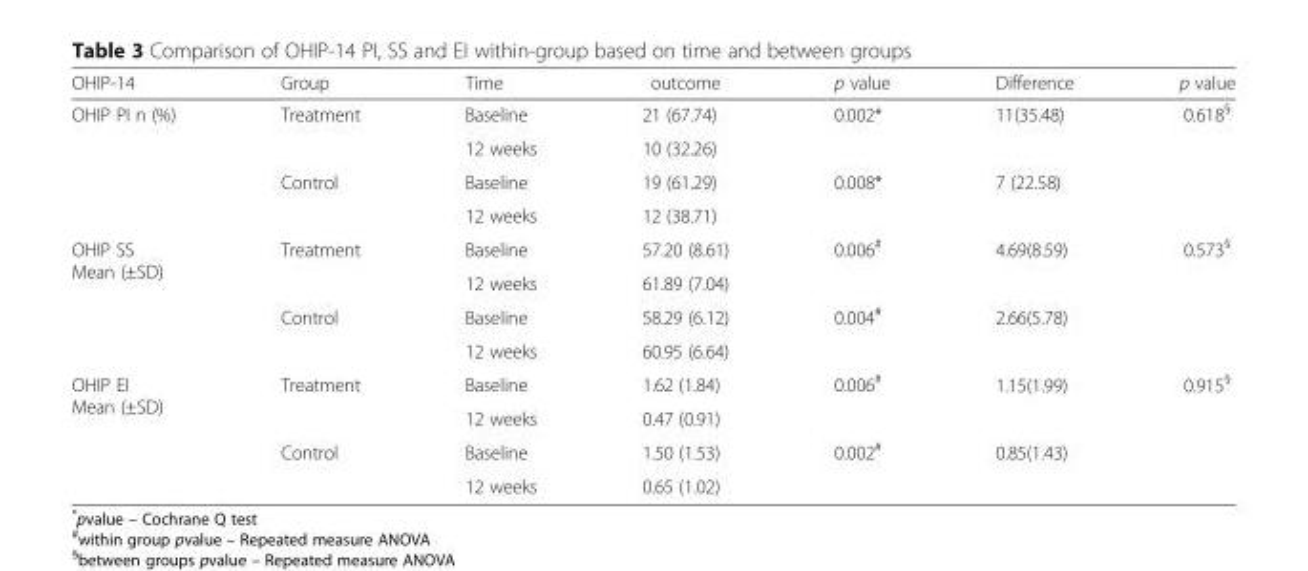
<table><thead><tr><td>OHIP-14</td><td>Group</td><td>Time</td><td>outcome</td><td>p value</td><td>Difference</td><td>p value</td></tr></thead><tbody><tr><td rowspan="4">OHIP PI n (%)</td><td rowspan="2">Treatment</td><td>Baseline</td><td>21 (67.74)</td><td rowspan="2">0.002*</td><td>11(35.48)</td><td rowspan="4">0.618<sup>§</sup></td></tr><tr><td>12 weeks</td><td>10 (32.26)</td><td></td></tr><tr><td rowspan="2">Control</td><td>Baseline</td><td>19 (61.29)</td><td rowspan="2">0.008*</td><td>7 (22.58)</td></tr><tr><td>12 weeks</td><td>12 (38.71)</td><td></td></tr><tr><td rowspan="4">OHIP SS Mean (±SD)</td><td rowspan="2">Treatment</td><td>Baseline</td><td>57.20 (8.61)</td><td rowspan="2">0.006<sup>#</sup></td><td>4.69(8.59)</td><td rowspan="4">0.573<sup>§</sup></td></tr><tr><td>12 weeks</td><td>61.89 (7.04)</td><td></td></tr><tr><td rowspan="2">Control</td><td>Baseline</td><td>58.29 (6.12)</td><td rowspan="2">0.004<sup>#</sup></td><td>2.66(5.78)</td></tr><tr><td>12 weeks</td><td>60.95 (6.64)</td><td></td></tr><tr><td rowspan="4">OHIP EI Mean (±SD)</td><td rowspan="2">Treatment</td><td>Baseline</td><td>1.62 (1.84)</td><td rowspan="2">0.006<sup>#</sup></td><td rowspan="2">1.15(1.99)</td><td rowspan="4">0.915<sup>§</sup></td></tr><tr><td>12 weeks</td><td>0.47 (0.91)</td></tr><tr><td rowspan="2">Control</td><td>Baseline</td><td>1.50 (1.53)</td><td rowspan="2">0.002<sup>#</sup></td><td rowspan="2">0.85(1.43)</td></tr><tr><td>12 weeks</td><td>0.65 (1.02)</td></tr></tbody></table>